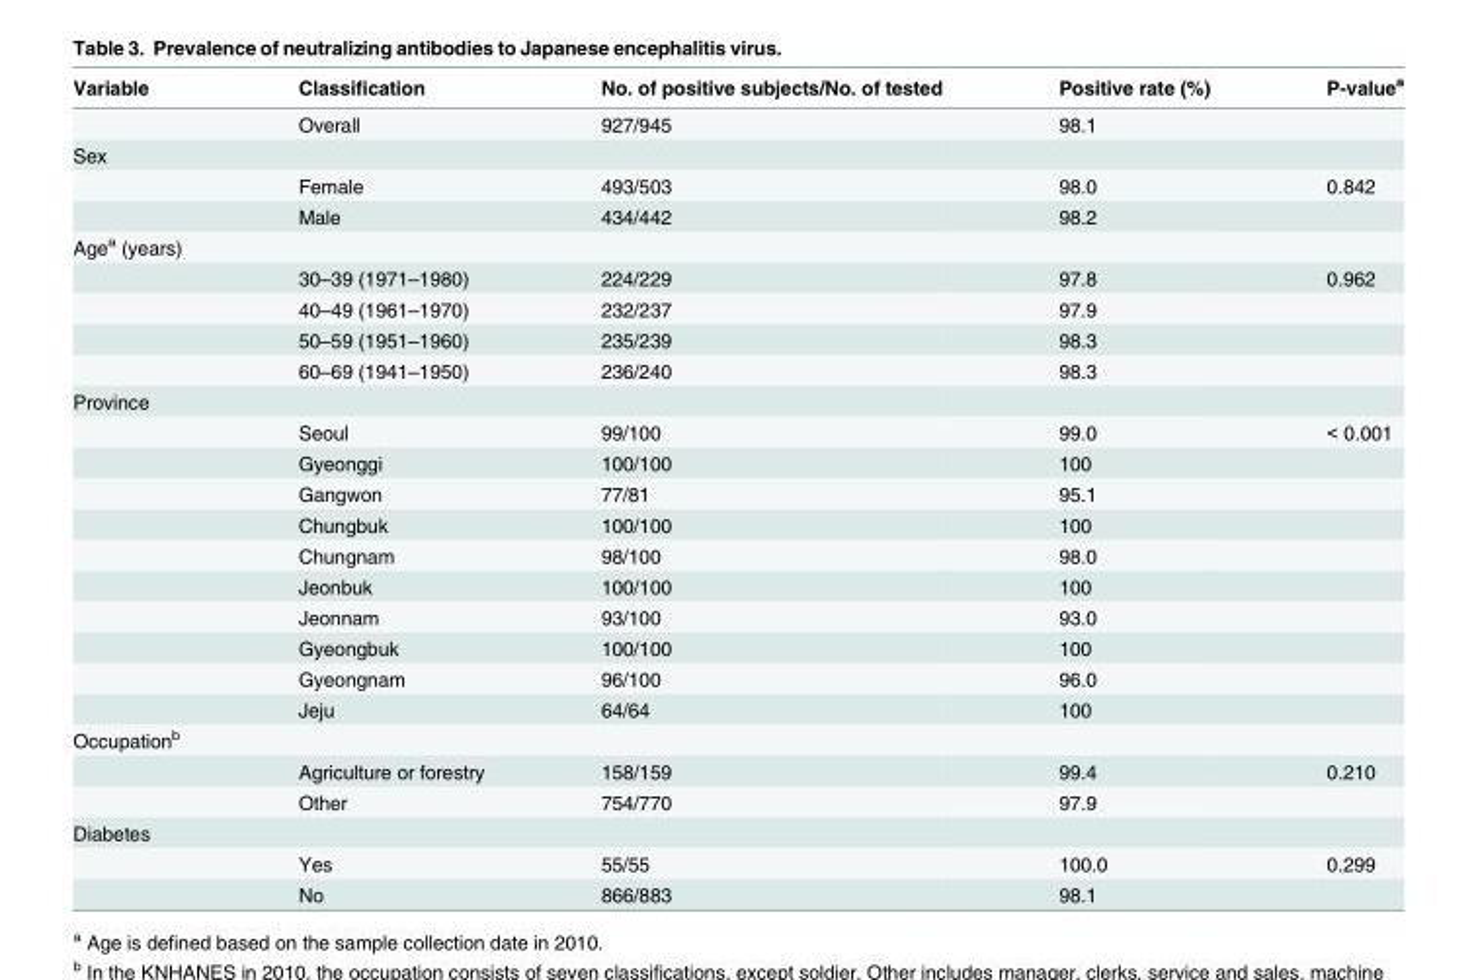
<table><thead><tr><td>Variable</td><td>Classification</td><td>No. of positive subjects/No. of tested</td><td>Positive rate (%)</td><td>P-value<sup>a</sup></td></tr></thead><tbody><tr><td></td><td>Overall</td><td>927/945</td><td>98.1</td><td></td></tr><tr><td colspan="5">Sex</td></tr><tr><td></td><td>Female</td><td>493/503</td><td>98.0</td><td>0.842</td></tr><tr><td></td><td>Male</td><td>434/442</td><td>98.2</td><td></td></tr><tr><td colspan="5">Age<sup>a</sup> (years)</td></tr><tr><td></td><td>30–39 (1971–1980)</td><td>224/229</td><td>97.8</td><td>0.962</td></tr><tr><td></td><td>40–49 (1961–1970)</td><td>232/237</td><td>97.9</td><td></td></tr><tr><td></td><td>50–59 (1951–1960)</td><td>235/239</td><td>98.3</td><td></td></tr><tr><td></td><td>60–69 (1941–1950)</td><td>236/240</td><td>98.3</td><td></td></tr><tr><td colspan="5">Province</td></tr><tr><td></td><td>Seoul</td><td>99/100</td><td>99.0</td><td>&lt; 0.001</td></tr><tr><td></td><td>Gyeonggi</td><td>100/100</td><td>100</td><td></td></tr><tr><td></td><td>Gangwon</td><td>77/81</td><td>95.1</td><td></td></tr><tr><td></td><td>Chungbuk</td><td>100/100</td><td>100</td><td></td></tr><tr><td></td><td>Chungnam</td><td>98/100</td><td>98.0</td><td></td></tr><tr><td></td><td>Jeonbuk</td><td>100/100</td><td>100</td><td></td></tr><tr><td></td><td>Jeonnam</td><td>93/100</td><td>93.0</td><td></td></tr><tr><td></td><td>Gyeongbuk</td><td>100/100</td><td>100</td><td></td></tr><tr><td></td><td>Gyeongnam</td><td>96/100</td><td>96.0</td><td></td></tr><tr><td></td><td>Jeju</td><td>64/64</td><td>100</td><td></td></tr><tr><td colspan="5">Occupation<sup>b</sup></td></tr><tr><td></td><td>Agriculture or forestry</td><td>158/159</td><td>99.4</td><td>0.210</td></tr><tr><td></td><td>Other</td><td>754/770</td><td>97.9</td><td></td></tr><tr><td colspan="5">Diabetes</td></tr><tr><td></td><td>Yes</td><td>55/55</td><td>100.0</td><td>0.299</td></tr><tr><td></td><td>No</td><td>866/883</td><td>98.1</td><td></td></tr></tbody></table>